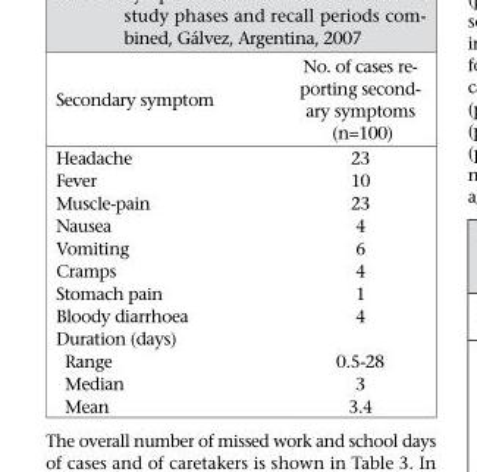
<table><thead><tr><td>Secondary symptom</td><td>No. of cases re- porting second- ary symptoms (n=100)</td></tr></thead><tbody><tr><td>Headache</td><td>23</td></tr><tr><td>Fever</td><td>10</td></tr><tr><td>Muscle-pain</td><td>23</td></tr><tr><td>Nausea</td><td>4</td></tr><tr><td>Vomiting</td><td>6</td></tr><tr><td>Cramps</td><td>4</td></tr><tr><td>Stomach pain</td><td>1</td></tr><tr><td>Bloody diarrhoea</td><td>4</td></tr><tr><td colspan="2">Duration (days)</td></tr><tr><td>Range</td><td>0.5-28</td></tr><tr><td>Median</td><td>3</td></tr><tr><td>Mean</td><td>3.4</td></tr></tbody></table>